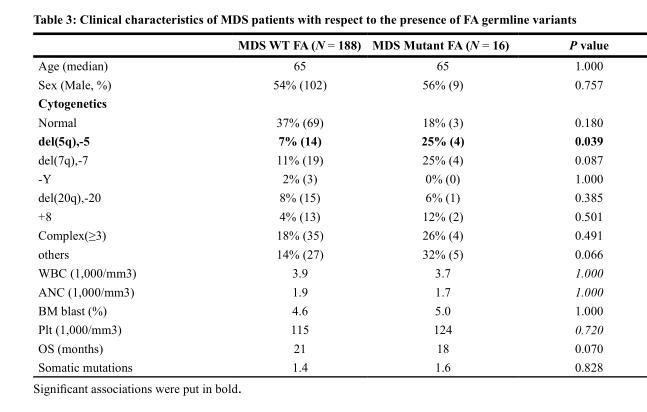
<table><thead><tr><td></td><td>MDS WT FA (N = 188)</td><td>MDS Mutant FA (N = 16)</td><td>P value</td></tr></thead><tbody><tr><td>Age (median)</td><td>65</td><td>65</td><td>1.000</td></tr><tr><td>Sex (Male, %)</td><td>54% (102)</td><td>56% (9)</td><td>0.757</td></tr><tr><td colspan="4">Cytogenetics</td></tr><tr><td>Normal</td><td>37% (69)</td><td>18% (3)</td><td>0.180</td></tr><tr><td>del(5q),-5</td><td>7% (14)</td><td>25% (4)</td><td>0.039</td></tr><tr><td>del(7q),-7</td><td>11% (19)</td><td>25% (4)</td><td>0.087</td></tr><tr><td>-Y</td><td>2% (3)</td><td>0% (0)</td><td>1.000</td></tr><tr><td>del(20q),-20</td><td>8% (15)</td><td>6% (1)</td><td>0.385</td></tr><tr><td>+8</td><td>4% (13)</td><td>12% (2)</td><td>0.501</td></tr><tr><td>Complex(≥3)</td><td>18% (35)</td><td>26% (4)</td><td>0.491</td></tr><tr><td>others</td><td>14% (27)</td><td>32% (5)</td><td>0.066</td></tr><tr><td>WBC (1,000/mm3)</td><td>3.9</td><td>3.7</td><td>1.000</td></tr><tr><td>ANC (1,000/mm3)</td><td>1.9</td><td>1.7</td><td>1.000</td></tr><tr><td>BM blast (%)</td><td>4.6</td><td>5.0</td><td>1.000</td></tr><tr><td>Plt (1,000/mm3)</td><td>115</td><td>124</td><td>0.720</td></tr><tr><td>OS (months)</td><td>21</td><td>18</td><td>0.070</td></tr><tr><td>Somatic mutations</td><td>1.4</td><td>1.6</td><td>0.828</td></tr></tbody></table>